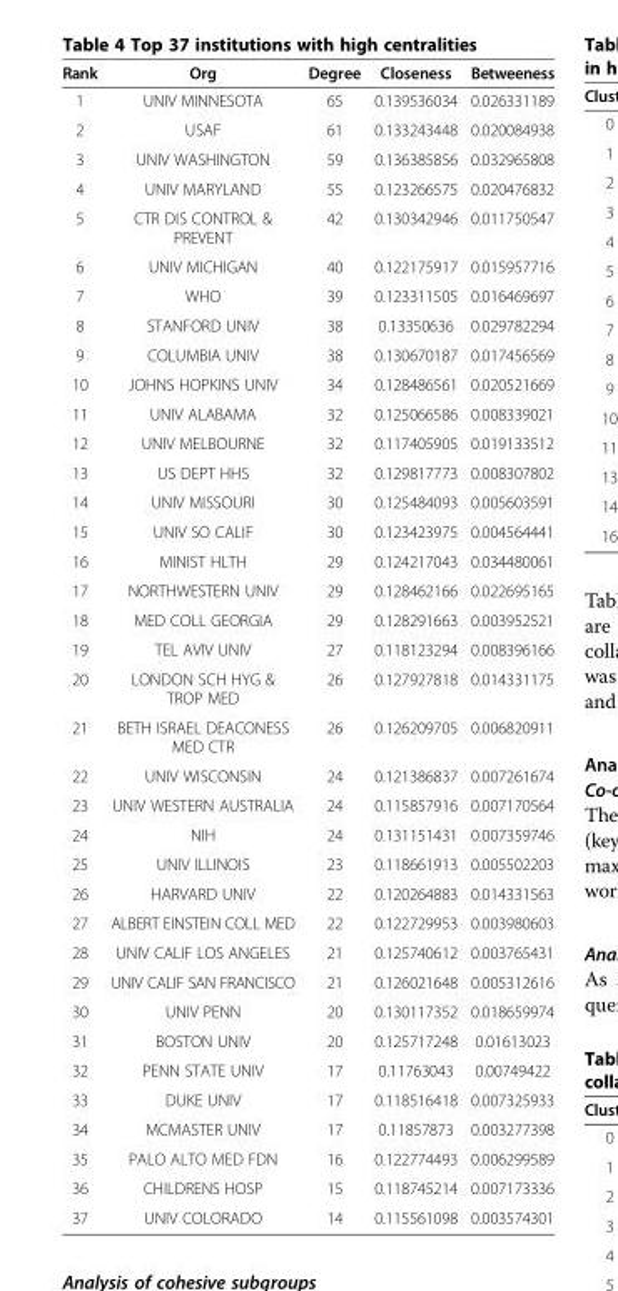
<table><thead><tr><td>Rank</td><td>Org</td><td>Degree</td><td>Closeness</td><td>Betweeness</td></tr></thead><tbody><tr><td>1</td><td>UNIV MINNESOTA</td><td>65</td><td>0.139536034</td><td>0.026331189</td></tr><tr><td>2</td><td>USAF</td><td>61</td><td>0.133243448</td><td>0.020084938</td></tr><tr><td>3</td><td>UNIV WASHINGTON</td><td>59</td><td>0.136385856</td><td>0.032965808</td></tr><tr><td>4</td><td>UNIV MARYLAND</td><td>55</td><td>0.123266575</td><td>0.020476832</td></tr><tr><td>5</td><td>CTR DIS CONTROL &amp; PREVENT</td><td>42</td><td>0.130342946</td><td>0.011750547</td></tr><tr><td>6</td><td>UNIV MICHIGAN</td><td>40</td><td>0.122175917</td><td>0.015957716</td></tr><tr><td>7</td><td>WHO</td><td>39</td><td>0.123311505</td><td>0.016469697</td></tr><tr><td>8</td><td>STANFORD UNIV</td><td>38</td><td>0.13350636</td><td>0.029782294</td></tr><tr><td>9</td><td>COLUMBIA UNIV</td><td>38</td><td>0.130670187</td><td>0.017456569</td></tr><tr><td>10</td><td>JOHNS HOPKINS UNIV</td><td>34</td><td>0.128486561</td><td>0.020521669</td></tr><tr><td>11</td><td>UNIV ALABAMA</td><td>32</td><td>0.125066586</td><td>0.008339021</td></tr><tr><td>12</td><td>UNIV MELBOURNE</td><td>32</td><td>0.117405905</td><td>0.019133512</td></tr><tr><td>13</td><td>US DEPT HHS</td><td>32</td><td>0.129817773</td><td>0.008307802</td></tr><tr><td>14</td><td>UNIV MISSOURI</td><td>30</td><td>0.125484093</td><td>0.005603591</td></tr><tr><td>15</td><td>UNIV SO CALIF</td><td>30</td><td>0.123423975</td><td>0.004564441</td></tr><tr><td>16</td><td>MINIST HLTH</td><td>29</td><td>0.124217043</td><td>0.034480061</td></tr><tr><td>17</td><td>NORTHWESTERN UNIV</td><td>29</td><td>0.128462166</td><td>0.022695165</td></tr><tr><td>18</td><td>MED COLL GEORGIA</td><td>29</td><td>0.128291663</td><td>0.003952521</td></tr><tr><td>19</td><td>TEL AVIV UNIV</td><td>27</td><td>0.118123294</td><td>0.008396166</td></tr><tr><td>20</td><td>LONDON SCH HYG &amp; TROP MED</td><td>26</td><td>0.127927818</td><td>0.014331175</td></tr><tr><td>21</td><td>BETH ISRAEL DEACONESS MED CTR</td><td>26</td><td>0.126209705</td><td>0.006820911</td></tr><tr><td>22</td><td>UNIV WISCONSIN</td><td>24</td><td>0.121386837</td><td>0.007261674</td></tr><tr><td>23</td><td>UNIV WESTERN AUSTRALIA</td><td>24</td><td>0.115857916</td><td>0.007170564</td></tr><tr><td>24</td><td>NIH</td><td>24</td><td>0.131151431</td><td>0.007359746</td></tr><tr><td>25</td><td>UNIV ILLINOIS</td><td>23</td><td>0.118661913</td><td>0.005502203</td></tr><tr><td>26</td><td>HARVARD UNIV</td><td>22</td><td>0.120264883</td><td>0.014331563</td></tr><tr><td>27</td><td>ALBERT EINSTEIN COLL MED</td><td>22</td><td>0.122729953</td><td>0.003980603</td></tr><tr><td>28</td><td>UNIV CALIF LOS ANGELES</td><td>21</td><td>0.125740612</td><td>0.003765431</td></tr><tr><td>29</td><td>UNIV CALIF SAN FRANCISCO</td><td>21</td><td>0.126021648</td><td>0.005312616</td></tr><tr><td>30</td><td>UNIV PENN</td><td>20</td><td>0.130117352</td><td>0.018659974</td></tr><tr><td>31</td><td>BOSTON UNIV</td><td>20</td><td>0.125717248</td><td>0.01613023</td></tr><tr><td>32</td><td>PENN STATE UNIV</td><td>17</td><td>0.11763043</td><td>0.00749422</td></tr><tr><td>33</td><td>DUKE UNIV</td><td>17</td><td>0.118516418</td><td>0.007325933</td></tr><tr><td>34</td><td>MCMASTER UNIV</td><td>17</td><td>0.11857873</td><td>0.003277398</td></tr><tr><td>35</td><td>PALO ALTO MED FDN</td><td>16</td><td>0.122774493</td><td>0.006299589</td></tr><tr><td>36</td><td>CHILDRENS HOSP</td><td>15</td><td>0.118745214</td><td>0.007173336</td></tr><tr><td>37</td><td>UNIV COLORADO</td><td>14</td><td>0.115561098</td><td>0.003574301</td></tr></tbody></table>